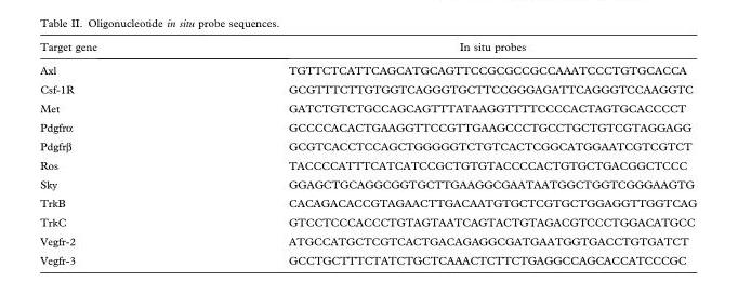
<table><thead><tr><td>Target gene</td><td>In situ probes</td></tr></thead><tbody><tr><td>Axl</td><td>TGTTCTCATTCAGCATGCAGTTCCGCGCCGCCAAATCCCTGTGCACCA</td></tr><tr><td>Csf-1R</td><td>GCGTTTCTTGTGGTCAGGGTGCTTCCGGGAGATTCAGGGTCCAAGGTC</td></tr><tr><td>Met</td><td>GATCTGTCTGCCAGCAGTTTATAAGGTTTTCCCCACTAGTGCACCCCT</td></tr><tr><td>Pdgfrα</td><td>GCCCCACACTGAAGGTTCCGTTGAAGCCCTGCCTGCTGTCGTAGGAGG</td></tr><tr><td>Pdgfrβ</td><td>GCGTCACCTCCAGCTGGGGGTCTGTCACTCGGCATGGAATCGTCGTCT</td></tr><tr><td>Ros</td><td>TACCCCATTTCATCATCCGCTGTGTACCCCACTGTGCTGACGGCTCCC</td></tr><tr><td>Sky</td><td>GGAGCTGCAGGCGGTGCTTGAAGGCGAATAATGGCTGGTCGGGAAGTG</td></tr><tr><td>TrkB</td><td>CACAGACACCGTAGAACTTGACAATGTGCTCGTGCTGGAGGTTGGTCAG</td></tr><tr><td>TrkC</td><td>GTCCTCCCACCCTGTAGTAATCAGTACTGTAGACGTCCCTGGACATGCC</td></tr><tr><td>Vegfr-2</td><td>ATGCCATGCTCGTCACTGACAGAGGCGATGAATGGTGACCTGTGATCT</td></tr><tr><td>Vegfr-3</td><td>GCCTGCTTTCTATCTGCTCAAACTCTTCTGAGGCCAGCACCATCCCGC</td></tr></tbody></table>